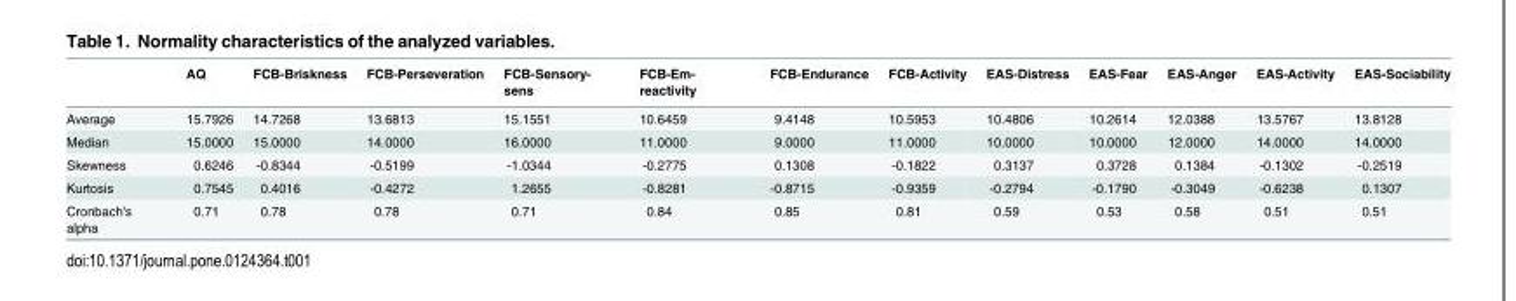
<table><thead><tr><td></td><td>AQ</td><td>FCB-Briskness</td><td>FCB-Perseveration</td><td>FCB-Sensory- sens</td><td>FCB-Em- reactivity</td><td>FCB-Endurance</td><td>FCB-Activity</td><td>EAS-Distress</td><td>EAS-Fear</td><td>EAS-Anger</td><td>EAS-Activity</td><td>EAS-Sociability</td></tr></thead><tbody><tr><td>Average</td><td>15.7926</td><td>14.7268</td><td>13.6813</td><td>15.1551</td><td>10.6459</td><td>9.4148</td><td>10.5953</td><td>10.4806</td><td>10.2614</td><td>12.0388</td><td>13.5767</td><td>13.8128</td></tr><tr><td>Median</td><td>15.0000</td><td>15.0000</td><td>14.0000</td><td>16.0000</td><td>11.0000</td><td>9.0000</td><td>11.0000</td><td>10.0000</td><td>10.0000</td><td>12.0000</td><td>14.0000</td><td>14.0000</td></tr><tr><td>Skewness</td><td>0.6246</td><td>-0.8344</td><td>-0.5199</td><td>-1.0344</td><td>-0.2775</td><td>0.1308</td><td>-0.1822</td><td>0.3137</td><td>0.3728</td><td>0.1384</td><td>-0.1302</td><td>-0.2519</td></tr><tr><td>Kurtosis</td><td>0.7545</td><td>0.4016</td><td>-0.4272</td><td>1.2655</td><td>-0.8281</td><td>-0.8715</td><td>-0.9359</td><td>-0.2794</td><td>-0.1790</td><td>-0.3049</td><td>-0.6238</td><td>0.1307</td></tr><tr><td>Cronbach&#x27;s alpha</td><td>0.71</td><td>0.78</td><td>0.78</td><td>0.71</td><td>0.84</td><td>0.85</td><td>0.81</td><td>0.59</td><td>0.53</td><td>0.58</td><td>0.51</td><td>0.51</td></tr></tbody></table>